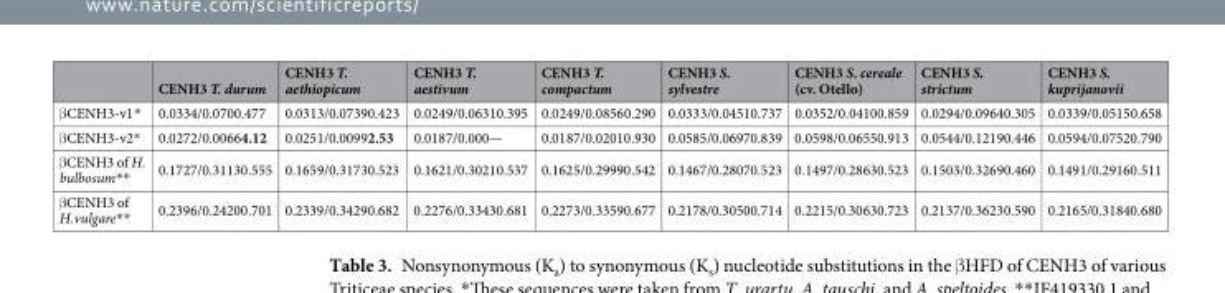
<table><thead><tr><td></td><td>CENH3 T. durum</td><td>CENH3 T. aethiopicum</td><td>CENH3 T. aestivum</td><td>CENH3 T. compactum</td><td>CENH3 S. sylvestre</td><td>CENH3 S. cereale (cv. Otello)</td><td>CENH3 S. strictum</td><td>CENH3 S. kuprijanovii</td></tr></thead><tbody><tr><td>βCENH3-v1*</td><td>0.0334/0.0700.477</td><td>0.0313/0.07390.423</td><td>0.0249/0.06310.395</td><td>0.0249/0.08560.290</td><td>0.0333/0.04510.737</td><td>0.0352/0.04100.859</td><td>0.0294/0.09640.305</td><td>0.0339/0.05150.658</td></tr><tr><td>βCENH3-v2*</td><td>0.0272/0.00664.12</td><td>0.0251/0.00992.53</td><td>0.0187/0.000—</td><td>0.0187/0.02010.930</td><td>0.0585/0.06970.839</td><td>0.0598/0.06550.913</td><td>0.0544/0.12190.446</td><td>0.0594/0.07520.790</td></tr><tr><td>βCENH3 of H. bulbosum**</td><td>0.1727/0.31130.555</td><td>0.1659/0.31730.523</td><td>0.1621/0.30210.537</td><td>0.1625/0.29990.542</td><td>0.1467/0.28070.523</td><td>0.1497/0.28630.523</td><td>0.1503/0.32690.460</td><td>0.1491/0.29160.511</td></tr><tr><td>βCENH3 of H.vulgare**</td><td>0.2396/0.24200.701</td><td>0.2339/0.34290.682</td><td>0.2276/0.33430.681</td><td>0.2273/0.33590.677</td><td>0.2178/0.30500.714</td><td>0.2215/0.30630.723</td><td>0.2137/0.36230.590</td><td>0.2165/0.31840.680</td></tr></tbody></table>